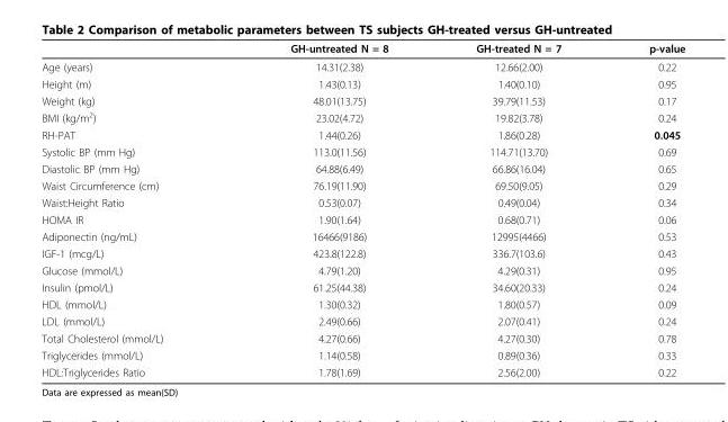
<table><thead><tr><td></td><td>GH-untreated N = 8</td><td>GH-treated N = 7</td><td>p-value</td></tr></thead><tbody><tr><td>Age (years)</td><td>14.31(2.38)</td><td>12.66(2.00)</td><td>0.22</td></tr><tr><td>Height (m)</td><td>1.43(0.13)</td><td>1.40(0.10)</td><td>0.95</td></tr><tr><td>Weight (kg)</td><td>48.01(13.75)</td><td>39.79(11.53)</td><td>0.17</td></tr><tr><td>BMI (kg/m<sup>2</sup>)</td><td>23.02(4.72)</td><td>19.82(3.78)</td><td>0.24</td></tr><tr><td>RH-PAT</td><td>1.44(0.26)</td><td>1.86(0.28)</td><td>0.045</td></tr><tr><td>Systolic BP (mm Hg)</td><td>113.0(11.56)</td><td>114.71(13.70)</td><td>0.69</td></tr><tr><td>Diastolic BP (mm Hg)</td><td>64.88(6.49)</td><td>66.86(16.04)</td><td>0.65</td></tr><tr><td>Waist Circumference (cm)</td><td>76.19(11.90)</td><td>69.50(9.05)</td><td>0.29</td></tr><tr><td>Waist:Height Ratio</td><td>0.53(0.07)</td><td>0.49(0.04)</td><td>0.34</td></tr><tr><td>HOMA IR</td><td>1.90(1.64)</td><td>0.68(0.71)</td><td>0.06</td></tr><tr><td>Adiponectin (ng/mL)</td><td>16466(9186)</td><td>12995(4466)</td><td>0.53</td></tr><tr><td>IGF-1 (mcg/L)</td><td>423.8(122.8)</td><td>336.7(103.6)</td><td>0.43</td></tr><tr><td>Glucose (mmol/L)</td><td>4.79(1.20)</td><td>4.29(0.31)</td><td>0.95</td></tr><tr><td>Insulin (pmol/L)</td><td>61.25(44.38)</td><td>34.60(20.33)</td><td>0.24</td></tr><tr><td>HDL (mmol/L)</td><td>1.30(0.32)</td><td>1.80(0.57)</td><td>0.09</td></tr><tr><td>LDL (mmol/L)</td><td>2.49(0.66)</td><td>2.07(0.41)</td><td>0.24</td></tr><tr><td>Total Cholesterol (mmol/L)</td><td>4.27(0.66)</td><td>4.27(0.30)</td><td>0.78</td></tr><tr><td>Triglycerides (mmol/L)</td><td>1.14(0.58)</td><td>0.89(0.36)</td><td>0.33</td></tr><tr><td>HDL:Triglycerides Ratio</td><td>1.78(1.69)</td><td>2.56(2.00)</td><td>0.22</td></tr></tbody></table>